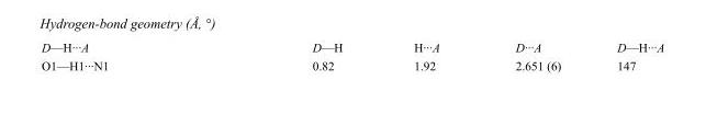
<table><tbody><tr><td>D—H···A</td><td>D—H</td><td>H···A</td><td>D···A</td><td>D—H···A</td></tr><tr><td>O1—H1···N1</td><td>0.82</td><td>1.92</td><td>2.651 (6)</td><td>147</td></tr></tbody></table>